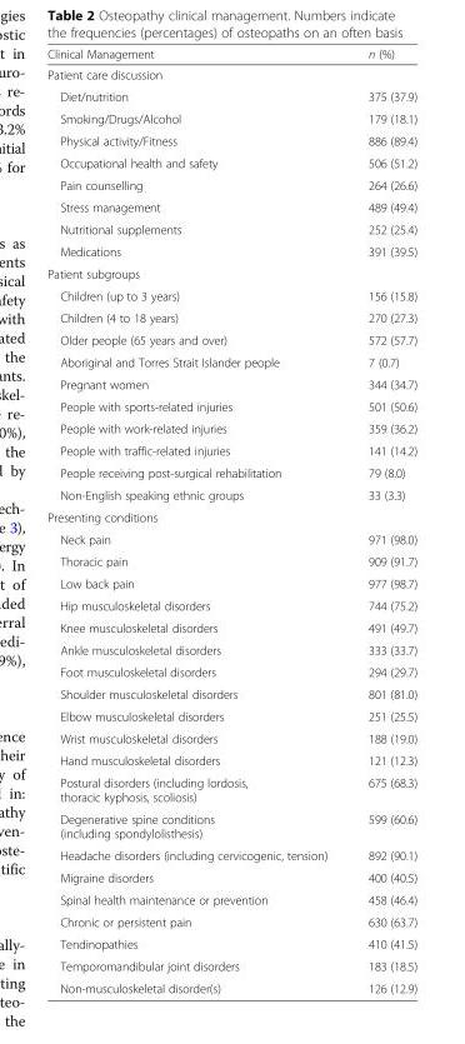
<table><thead><tr><td>Clinical Management</td><td>n (%)</td></tr></thead><tbody><tr><td colspan="2">Patient care discussion</td></tr><tr><td>Diet/nutrition</td><td>375 (37.9)</td></tr><tr><td>Smoking/Drugs/Alcohol</td><td>179 (18.1)</td></tr><tr><td>Physical activity/Fitness</td><td>886 (89.4)</td></tr><tr><td>Occupational health and safety</td><td>506 (51.2)</td></tr><tr><td>Pain counselling</td><td>264 (26.6)</td></tr><tr><td>Stress management</td><td>489 (49.4)</td></tr><tr><td>Nutritional supplements</td><td>252 (25.4)</td></tr><tr><td>Medications</td><td>391 (39.5)</td></tr><tr><td colspan="2">Patient subgroups</td></tr><tr><td>Children (up to 3 years)</td><td>156 (15.8)</td></tr><tr><td>Children (4 to 18 years)</td><td>270 (27.3)</td></tr><tr><td>Older people (65 years and over)</td><td>572 (57.7)</td></tr><tr><td>Aboriginal and Torres Strait Islander people</td><td>7 (0.7)</td></tr><tr><td>Pregnant women</td><td>344 (34.7)</td></tr><tr><td>People with sports-related injuries</td><td>501 (50.6)</td></tr><tr><td>People with work-related injuries</td><td>359 (36.2)</td></tr><tr><td>People with traffic-related injuries</td><td>141 (14.2)</td></tr><tr><td>People receiving post-surgical rehabilitation</td><td>79 (8.0)</td></tr><tr><td>Non-English speaking ethnic groups</td><td>33 (3.3)</td></tr><tr><td colspan="2">Presenting conditions</td></tr><tr><td>Neck pain</td><td>971 (98.0)</td></tr><tr><td>Thoracic pain</td><td>909 (91.7)</td></tr><tr><td>Low back pain</td><td>977 (98.7)</td></tr><tr><td>Hip musculoskeletal disorders</td><td>744 (75.2)</td></tr><tr><td>Knee musculoskeletal disorders</td><td>491 (49.7)</td></tr><tr><td>Ankle musculoskeletal disorders</td><td>333 (33.7)</td></tr><tr><td>Foot musculoskeletal disorders</td><td>294 (29.7)</td></tr><tr><td>Shoulder musculoskeletal disorders</td><td>801 (81.0)</td></tr><tr><td>Elbow musculoskeletal disorders</td><td>251 (25.5)</td></tr><tr><td>Wrist musculoskeletal disorders</td><td>188 (19.0)</td></tr><tr><td>Hand musculoskeletal disorders</td><td>121 (12.3)</td></tr><tr><td>Postural disorders (including lordosis, thoracic kyphosis, scoliosis)</td><td>675 (68.3)</td></tr><tr><td>Degenerative spine conditions (including spondylolisthesis)</td><td>599 (60.6)</td></tr><tr><td>Headache disorders (including cervicogenic, tension)</td><td>892 (90.1)</td></tr><tr><td>Migraine disorders</td><td>400 (40.5)</td></tr><tr><td>Spinal health maintenance or prevention</td><td>458 (46.4)</td></tr><tr><td>Chronic or persistent pain</td><td>630 (63.7)</td></tr><tr><td>Tendinopathies</td><td>410 (41.5)</td></tr><tr><td>Temporomandibular joint disorders</td><td>183 (18.5)</td></tr><tr><td>Non-musculoskeletal disorder(s)</td><td>126 (12.9)</td></tr></tbody></table>